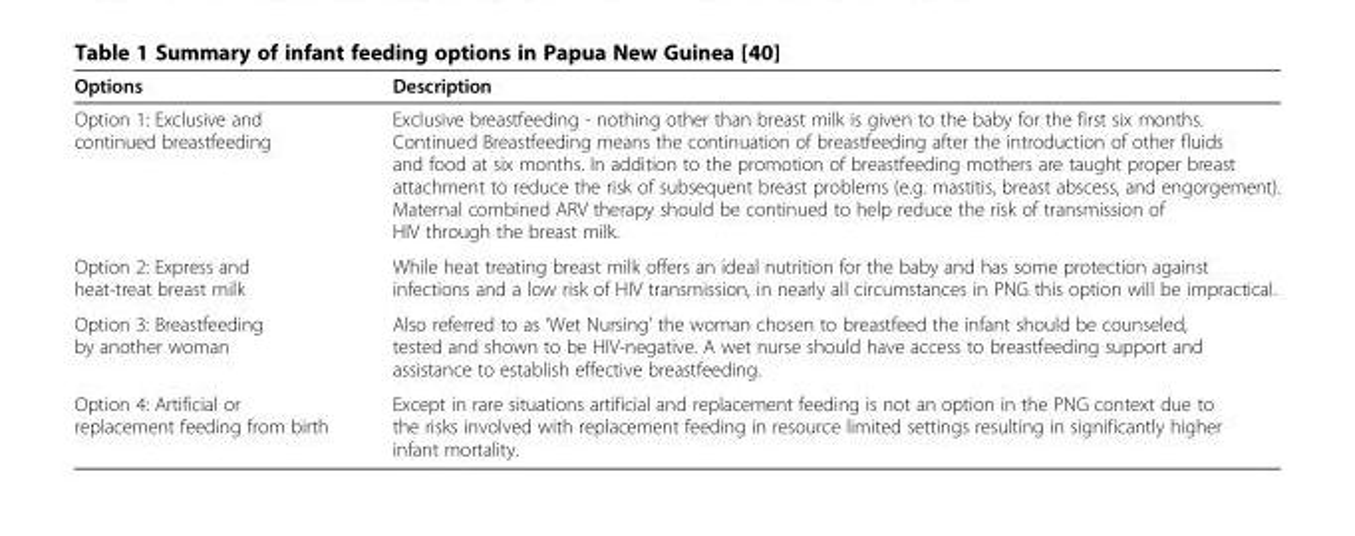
<table><thead><tr><td>Options</td><td>Description</td></tr></thead><tbody><tr><td>Option 1: Exclusive and continued breastfeeding</td><td>Exclusive breastfeeding - nothing other than breast milk is given to the baby for the first six months. Continued Breastfeeding means the continuation of breastfeeding after the introduction of other fluids and food at six months. In addition to the promotion of breastfeeding mothers are taught proper breast attachment to reduce the risk of subsequent breast problems (e.g. mastitis, breast abscess, and engorgement). Maternal combined ARV therapy should be continued to help reduce the risk of transmission of HIV through the breast milk.</td></tr><tr><td>Option 2: Express and heat-treat breast milk</td><td>While heat treating breast milk offers an ideal nutrition for the baby and has some protection against infections and a low risk of HIV transmission, in nearly all circumstances in PNG this option will be impractical.</td></tr><tr><td>Option 3: Breastfeeding by another woman</td><td>Also referred to as ‘Wet Nursing’ the woman chosen to breastfeed the infant should be counseled, tested and shown to be HIV-negative. A wet nurse should have access to breastfeeding support and assistance to establish effective breastfeeding.</td></tr><tr><td>Option 4: Artificial or replacement feeding from birth</td><td>Except in rare situations artificial and replacement feeding is not an option in the PNG context due to the risks involved with replacement feeding in resource limited settings resulting in significantly higher infant mortality.</td></tr></tbody></table>